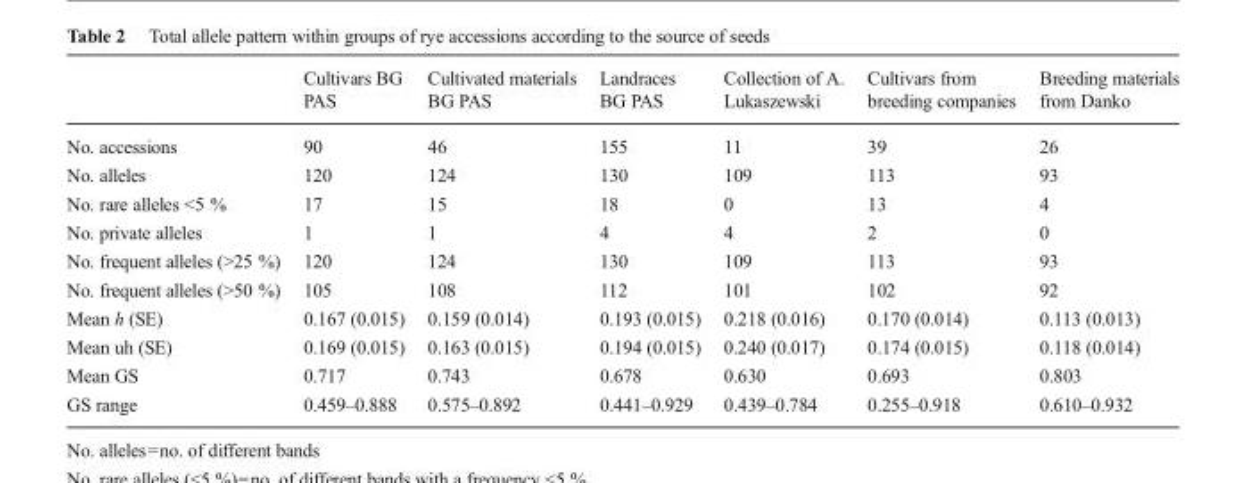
<table><thead><tr><td></td><td>Cultivars BG PAS</td><td>Cultivated materials BG PAS</td><td>Landraces BG PAS</td><td>Collection of A. Lukaszewski</td><td>Cultivars from breeding companies</td><td>Breeding materials from Danko</td></tr></thead><tbody><tr><td>No. accessions</td><td>90</td><td>46</td><td>155</td><td>11</td><td>39</td><td>26</td></tr><tr><td>No. alleles</td><td>120</td><td>124</td><td>130</td><td>109</td><td>113</td><td>93</td></tr><tr><td>No. rare alleles &lt;5 %</td><td>17</td><td>15</td><td>18</td><td>0</td><td>13</td><td>4</td></tr><tr><td>No. private alleles</td><td>1</td><td>1</td><td>4</td><td>4</td><td>2</td><td>0</td></tr><tr><td>No. frequent alleles (&gt;25 %)</td><td>120</td><td>124</td><td>130</td><td>109</td><td>113</td><td>93</td></tr><tr><td>No. frequent alleles (&gt;50 %)</td><td>105</td><td>108</td><td>112</td><td>101</td><td>102</td><td>92</td></tr><tr><td>Mean h (SE)</td><td>0.167 (0.015)</td><td>0.159 (0.014)</td><td>0.193 (0.015)</td><td>0.218 (0.016)</td><td>0.170 (0.014)</td><td>0.113 (0.013)</td></tr><tr><td>Mean uh (SE)</td><td>0.169 (0.015)</td><td>0.163 (0.015)</td><td>0.194 (0.015)</td><td>0.240 (0.017)</td><td>0.174 (0.015)</td><td>0.118 (0.014)</td></tr><tr><td>Mean GS</td><td>0.717</td><td>0.743</td><td>0.678</td><td>0.630</td><td>0.693</td><td>0.803</td></tr><tr><td>GS range</td><td>0.459–0.888</td><td>0.575–0.892</td><td>0.441–0.929</td><td>0.439–0.784</td><td>0.255–0.918</td><td>0.610–0.932</td></tr></tbody></table>